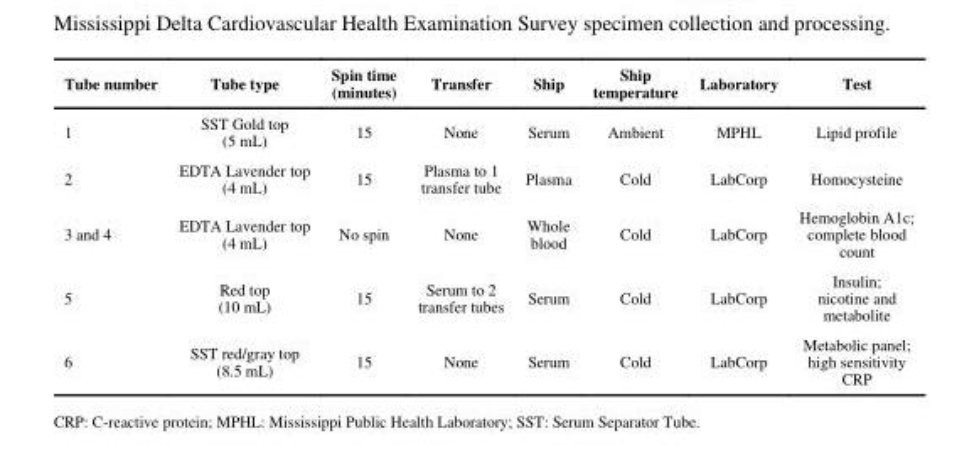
<table><thead><tr><td>Tube number</td><td>Tube type</td><td>Spin time (minutes)</td><td>Transfer</td><td>Ship</td><td>Ship temperature</td><td>Laboratory</td><td>Test</td></tr></thead><tbody><tr><td>1</td><td>SST Gold top (5 mL)</td><td>15</td><td>None</td><td>Serum</td><td>Ambient</td><td>MPHL</td><td>Lipid profile</td></tr><tr><td>2</td><td>EDTA Lavender top (4 mL)</td><td>15</td><td>Plasma to 1 transfer tube</td><td>Plasma</td><td>Cold</td><td>LabCorp</td><td>Homocysteine</td></tr><tr><td>3 and 4</td><td>EDTA Lavender top (4 mL)</td><td>No spin</td><td>None</td><td>Whole blood</td><td>Cold</td><td>LabCorp</td><td>Hemoglobin A1c; complete blood count</td></tr><tr><td>5</td><td>Red top (10 mL)</td><td>15</td><td>Serum to 2 transfer tubes</td><td>Serum</td><td>Cold</td><td>LabCorp</td><td>Insulin; nicotine and metabolite</td></tr><tr><td>6</td><td>SST red/gray top (8.5 mL)</td><td>15</td><td>None</td><td>Serum</td><td>Cold</td><td>LabCorp</td><td>Metabolic panel; high sensitivity CRP</td></tr></tbody></table>